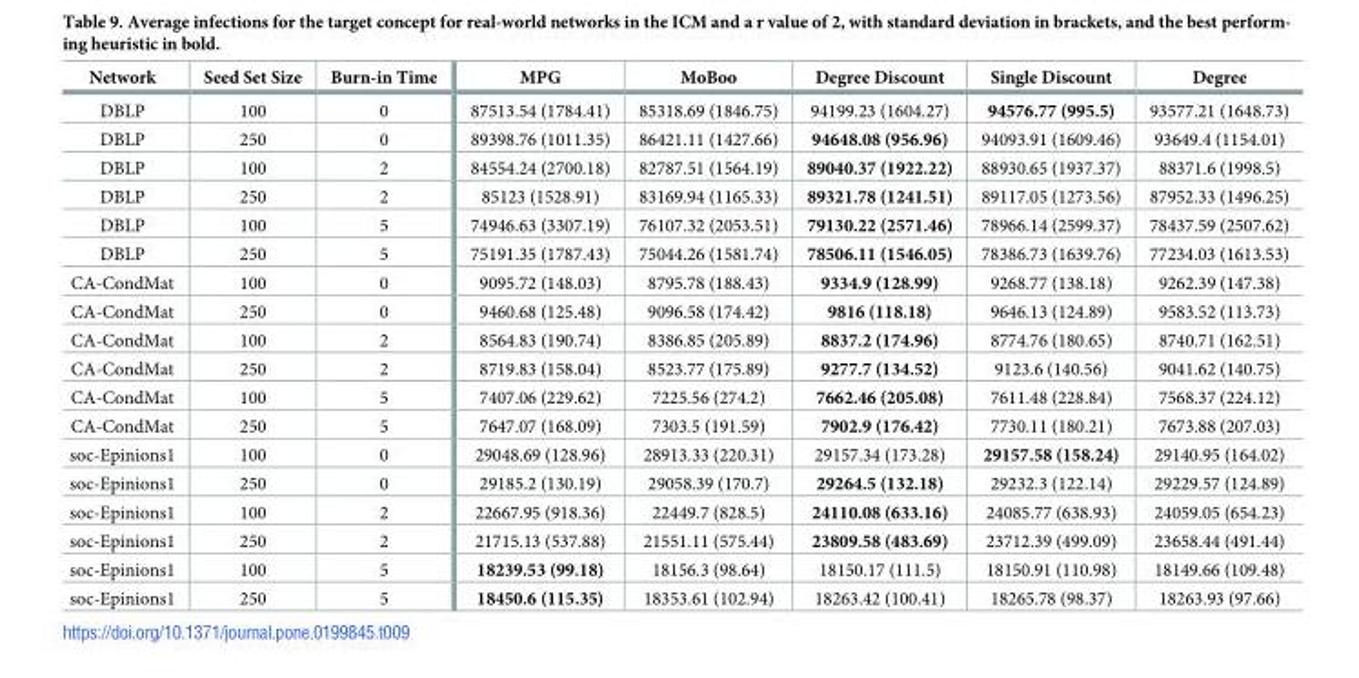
<table><thead><tr><td>Network</td><td>Seed Set Size</td><td>Burn-in Time</td><td>MPG</td><td>MoBoo</td><td>Degree Discount</td><td>Single Discount</td><td>Degree</td></tr></thead><tbody><tr><td>DBLP</td><td>100</td><td>0</td><td>87513.54 (1784.41)</td><td>85318.69 (1846.75)</td><td>94199.23 (1604.27)</td><td>94576.77 (995.5)</td><td>93577.21 (1648.73)</td></tr><tr><td>DBLP</td><td>250</td><td>0</td><td>89398.76 (1011.35)</td><td>86421.11 (1427.66)</td><td>94648.08 (956.96)</td><td>94093.91 (1609.46)</td><td>93649.4 (1154.01)</td></tr><tr><td>DBLP</td><td>100</td><td>2</td><td>84554.24 (2700.18)</td><td>82787.51 (1564.19)</td><td>89040.37 (1922.22)</td><td>88930.65 (1937.37)</td><td>88371.6 (1998.5)</td></tr><tr><td>DBLP</td><td>250</td><td>2</td><td>85123 (1528.91)</td><td>83169.94 (1165.33)</td><td>89321.78 (1241.51)</td><td>89117.05 (1273.56)</td><td>87952.33 (1496.25)</td></tr><tr><td>DBLP</td><td>100</td><td>5</td><td>74946.63 (3307.19)</td><td>76107.32 (2053.51)</td><td>79130.22 (2571.46)</td><td>78966.14 (2599.37)</td><td>78437.59 (2507.62)</td></tr><tr><td>DBLP</td><td>250</td><td>5</td><td>75191.35 (1787.43)</td><td>75044.26 (1581.74)</td><td>78506.11 (1546.05)</td><td>78386.73 (1639.76)</td><td>77234.03 (1613.53)</td></tr><tr><td>CA-CondMat</td><td>100</td><td>0</td><td>9095.72 (148.03)</td><td>8795.78 (188.43)</td><td>9334.9 (128.99)</td><td>9268.77 (138.18)</td><td>9262.39 (147.38)</td></tr><tr><td>CA-CondMat</td><td>250</td><td>0</td><td>9460.68 (125.48)</td><td>9096.58 (174.42)</td><td>9816 (118.18)</td><td>9646.13 (124.89)</td><td>9583.52 (113.73)</td></tr><tr><td>CA-CondMat</td><td>100</td><td>2</td><td>8564.83 (190.74)</td><td>8386.85 (205.89)</td><td>8837.2 (174.96)</td><td>8774.76 (180.65)</td><td>8740.71 (162.51)</td></tr><tr><td>CA-CondMat</td><td>250</td><td>2</td><td>8719.83 (158.04)</td><td>8523.77 (175.89)</td><td>9277.7 (134.52)</td><td>9123.6 (140.56)</td><td>9041.62 (140.75)</td></tr><tr><td>CA-CondMat</td><td>100</td><td>5</td><td>7407.06 (229.62)</td><td>7225.56 (274.2)</td><td>7662.46 (205.08)</td><td>7611.48 (228.84)</td><td>7568.37 (224.12)</td></tr><tr><td>CA-CondMat</td><td>250</td><td>5</td><td>7647.07 (168.09)</td><td>7303.5 (191.59)</td><td>7902.9 (176.42)</td><td>7730.11 (180.21)</td><td>7673.88 (207.03)</td></tr><tr><td>soc-Epinions1</td><td>100</td><td>0</td><td>29048.69 (128.96)</td><td>28913.33 (220.31)</td><td>29157.34 (173.28)</td><td>29157.58 (158.24)</td><td>29140.95 (164.02)</td></tr><tr><td>soc-Epinions1</td><td>250</td><td>0</td><td>29185.2 (130.19)</td><td>29058.39 (170.7)</td><td>29264.5 (132.18)</td><td>29232.3 (122.14)</td><td>29229.57 (124.89)</td></tr><tr><td>soc-Epinions1</td><td>100</td><td>2</td><td>22667.95 (918.36)</td><td>22449.7 (828.5)</td><td>24110.08 (633.16)</td><td>24085.77 (638.93)</td><td>24059.05 (654.23)</td></tr><tr><td>soc-Epinions1</td><td>250</td><td>2</td><td>21715.13 (537.88)</td><td>21551.11 (575.44)</td><td>23809.58 (483.69)</td><td>23712.39 (499.09)</td><td>23658.44 (491.44)</td></tr><tr><td>soc-Epinions1</td><td>100</td><td>5</td><td>18239.53 (99.18)</td><td>18156.3 (98.64)</td><td>18150.17 (111.5)</td><td>18150.91 (110.98)</td><td>18149.66 (109.48)</td></tr><tr><td>soc-Epinions1</td><td>250</td><td>5</td><td>18450.6 (115.35)</td><td>18353.61 (102.94)</td><td>18263.42 (100.41)</td><td>18265.78 (98.37)</td><td>18263.93 (97.66)</td></tr></tbody></table>